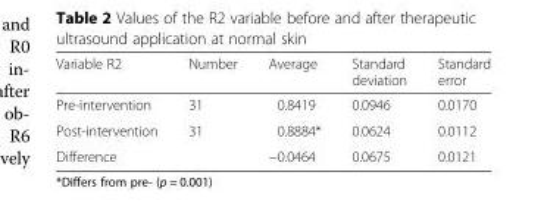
<table><thead><tr><td>Variable R2</td><td>Number</td><td>Average</td><td>Standard deviation</td><td>Standard error</td></tr></thead><tbody><tr><td>Pre-intervention</td><td>31</td><td>0.8419</td><td>0.0946</td><td>0.0170</td></tr><tr><td>Post-intervention</td><td>31</td><td>0.8884*</td><td>0.0624</td><td>0.0112</td></tr><tr><td>Difference</td><td></td><td>−0.0464</td><td>0.0675</td><td>0.0121</td></tr></tbody></table>